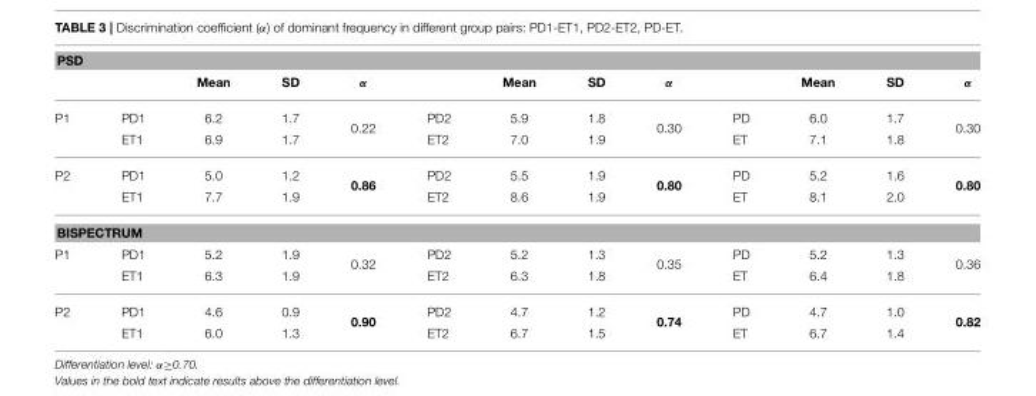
<table><thead><tr><td colspan="13">PSD</td></tr><tr><td></td><td></td><td>Mean</td><td>SD</td><td>α</td><td></td><td>Mean</td><td>SD</td><td>α</td><td></td><td>Mean</td><td>SD</td><td>α</td></tr></thead><tbody><tr><td rowspan="2">P1</td><td>PD1</td><td>6.2</td><td>1.7</td><td rowspan="2">0.22</td><td>PD2</td><td>5.9</td><td>1.8</td><td rowspan="2">0.30</td><td>PD</td><td>6.0</td><td>1.7</td><td rowspan="2">0.30</td></tr><tr><td>ET1</td><td>6.9</td><td>1.7</td><td>ET2</td><td>7.0</td><td>1.9</td><td>ET</td><td>7.1</td><td>1.8</td></tr><tr><td rowspan="2">P2</td><td>PD1</td><td>5.0</td><td>1.2</td><td rowspan="2">0.86</td><td>PD2</td><td>5.5</td><td>1.9</td><td rowspan="2">0.80</td><td>PD</td><td>5.2</td><td>1.6</td><td rowspan="2">0.80</td></tr><tr><td>ET1</td><td>7.7</td><td>1.9</td><td>ET2</td><td>8.6</td><td>1.9</td><td>ET</td><td>8.1</td><td>2.0</td></tr><tr><td colspan="13">BISPECTRUM</td></tr><tr><td rowspan="2">P1</td><td>PD1</td><td>5.2</td><td>1.9</td><td rowspan="2">0.32</td><td>PD2</td><td>5.2</td><td>1.3</td><td rowspan="2">0.35</td><td>PD</td><td>5.2</td><td>1.3</td><td rowspan="2">0.36</td></tr><tr><td>ET1</td><td>6.3</td><td>1.9</td><td>ET2</td><td>6.3</td><td>1.8</td><td>ET</td><td>6.4</td><td>1.8</td></tr><tr><td rowspan="2">P2</td><td>PD1</td><td>4.6</td><td>0.9</td><td rowspan="2">0.90</td><td>PD2</td><td>4.7</td><td>1.2</td><td rowspan="2">0.74</td><td>PD</td><td>4.7</td><td>1.0</td><td rowspan="2">0.82</td></tr><tr><td>ET1</td><td>6.0</td><td>1.3</td><td>ET2</td><td>6.7</td><td>1.5</td><td>ET</td><td>6.7</td><td>1.4</td></tr></tbody></table>